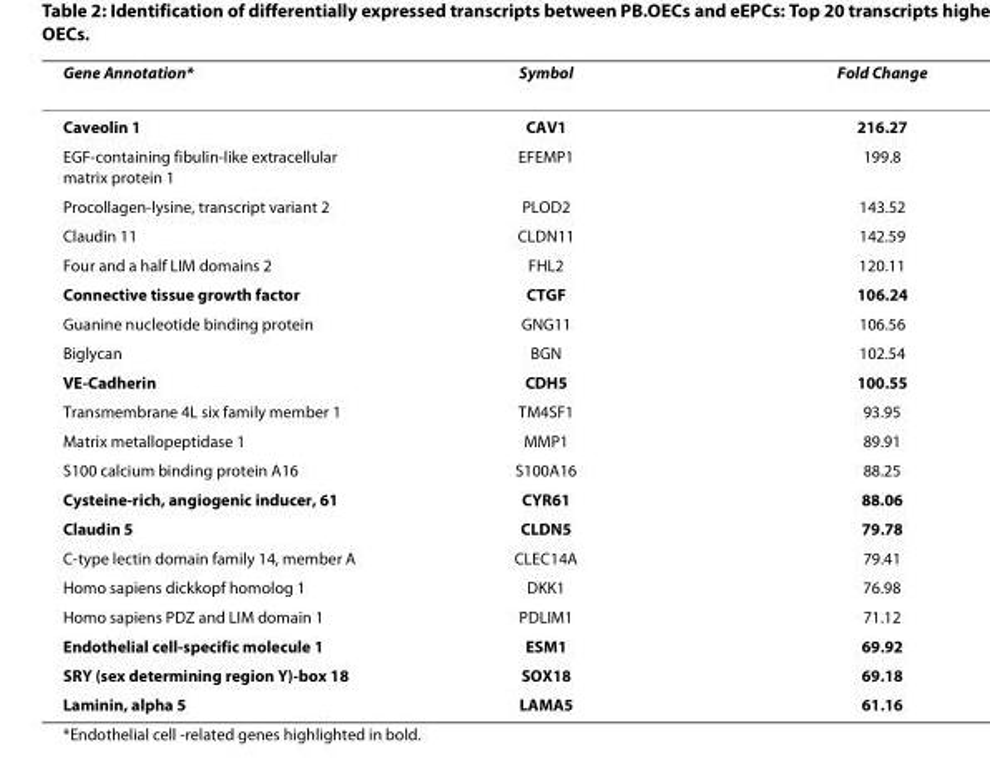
<table><thead><tr><td>Gene Annotation*</td><td>Symbol</td><td>Fold Change</td></tr></thead><tbody><tr><td>Caveolin 1</td><td>CAV1</td><td>216.27</td></tr><tr><td>EGF-containing fibulin-like extracellular matrix protein 1</td><td>EFEMP1</td><td>199.8</td></tr><tr><td>Procollagen-lysine, transcript variant 2</td><td>PLOD2</td><td>143.52</td></tr><tr><td>Claudin 11</td><td>CLDN11</td><td>142.59</td></tr><tr><td>Four and a half LIM domains 2</td><td>FHL2</td><td>120.11</td></tr><tr><td>Connective tissue growth factor</td><td>CTGF</td><td>106.24</td></tr><tr><td>Guanine nucleotide binding protein</td><td>GNG11</td><td>106.56</td></tr><tr><td>Biglycan</td><td>BGN</td><td>102.54</td></tr><tr><td>VE-Cadherin</td><td>CDH5</td><td>100.55</td></tr><tr><td>Transmembrane 4L six family member 1</td><td>TM4SF1</td><td>93.95</td></tr><tr><td>Matrix metallopeptidase 1</td><td>MMP1</td><td>89.91</td></tr><tr><td>S100 calcium binding protein A16</td><td>S100A16</td><td>88.25</td></tr><tr><td>Cysteine-rich, angiogenic inducer, 61</td><td>CYR61</td><td>88.06</td></tr><tr><td>Claudin 5</td><td>CLDN5</td><td>79.78</td></tr><tr><td>C-type lectin domain family 14, member A</td><td>CLEC14A</td><td>79.41</td></tr><tr><td>Homo sapiens dickkopf homolog 1</td><td>DKK1</td><td>76.98</td></tr><tr><td>Homo sapiens PDZ and LIM domain 1</td><td>PDLIM1</td><td>71.12</td></tr><tr><td>Endothelial cell-specific molecule 1</td><td>ESM1</td><td>69.92</td></tr><tr><td>SRY (sex determining region Y)-box 18</td><td>SOX18</td><td>69.18</td></tr><tr><td>Laminin, alpha 5</td><td>LAMA5</td><td>61.16</td></tr></tbody></table>